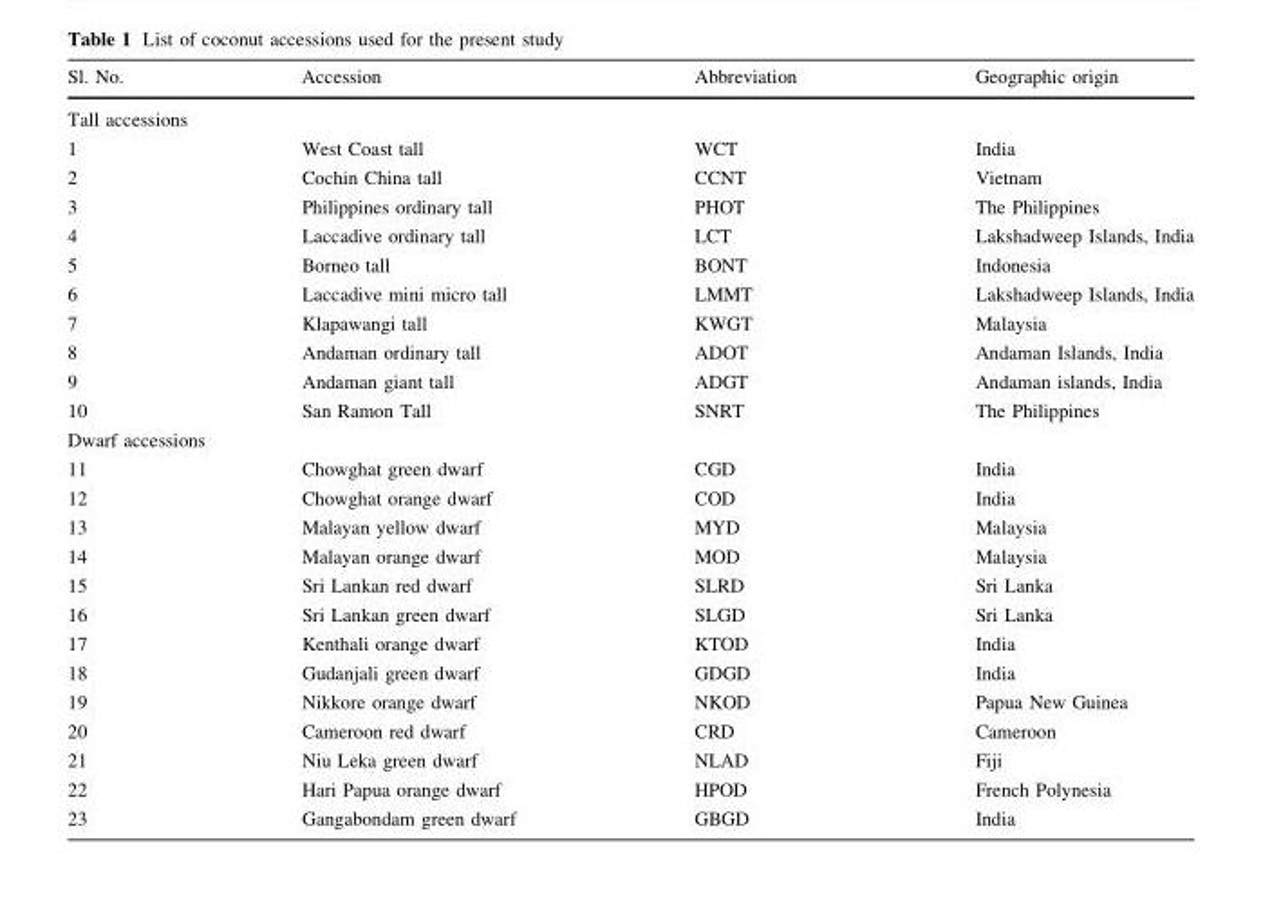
<table><thead><tr><td>Sl. No.</td><td>Accession</td><td>Abbreviation</td><td>Geographic origin</td></tr></thead><tbody><tr><td colspan="4">Tall accessions</td></tr><tr><td>1</td><td>West Coast tall</td><td>WCT</td><td>India</td></tr><tr><td>2</td><td>Cochin China tall</td><td>CCNT</td><td>Vietnam</td></tr><tr><td>3</td><td>Philippines ordinary tall</td><td>PHOT</td><td>The Philippines</td></tr><tr><td>4</td><td>Laccadive ordinary tall</td><td>LCT</td><td>Lakshadweep Islands, India</td></tr><tr><td>5</td><td>Borneo tall</td><td>BONT</td><td>Indonesia</td></tr><tr><td>6</td><td>Laccadive mini micro tall</td><td>LMMT</td><td>Lakshadweep Islands, India</td></tr><tr><td>7</td><td>Klapawangi tall</td><td>KWGT</td><td>Malaysia</td></tr><tr><td>8</td><td>Andaman ordinary tall</td><td>ADOT</td><td>Andaman Islands, India</td></tr><tr><td>9</td><td>Andaman giant tall</td><td>ADGT</td><td>Andaman islands, India</td></tr><tr><td>10</td><td>San Ramon Tall</td><td>SNRT</td><td>The Philippines</td></tr><tr><td colspan="4">Dwarf accessions</td></tr><tr><td>11</td><td>Chowghat green dwarf</td><td>CGD</td><td>India</td></tr><tr><td>12</td><td>Chowghat orange dwarf</td><td>COD</td><td>India</td></tr><tr><td>13</td><td>Malayan yellow dwarf</td><td>MYD</td><td>Malaysia</td></tr><tr><td>14</td><td>Malayan orange dwarf</td><td>MOD</td><td>Malaysia</td></tr><tr><td>15</td><td>Sri Lankan red dwarf</td><td>SLRD</td><td>Sri Lanka</td></tr><tr><td>16</td><td>Sri Lankan green dwarf</td><td>SLGD</td><td>Sri Lanka</td></tr><tr><td>17</td><td>Kenthali orange dwarf</td><td>KTOD</td><td>India</td></tr><tr><td>18</td><td>Gudanjali green dwarf</td><td>GDGD</td><td>India</td></tr><tr><td>19</td><td>Nikkore orange dwarf</td><td>NKOD</td><td>Papua New Guinea</td></tr><tr><td>20</td><td>Cameroon red dwarf</td><td>CRD</td><td>Cameroon</td></tr><tr><td>21</td><td>Niu Leka green dwarf</td><td>NLAD</td><td>Fiji</td></tr><tr><td>22</td><td>Hari Papua orange dwarf</td><td>HPOD</td><td>French Polynesia</td></tr><tr><td>23</td><td>Gangabondam green dwarf</td><td>GBGD</td><td>India</td></tr></tbody></table>